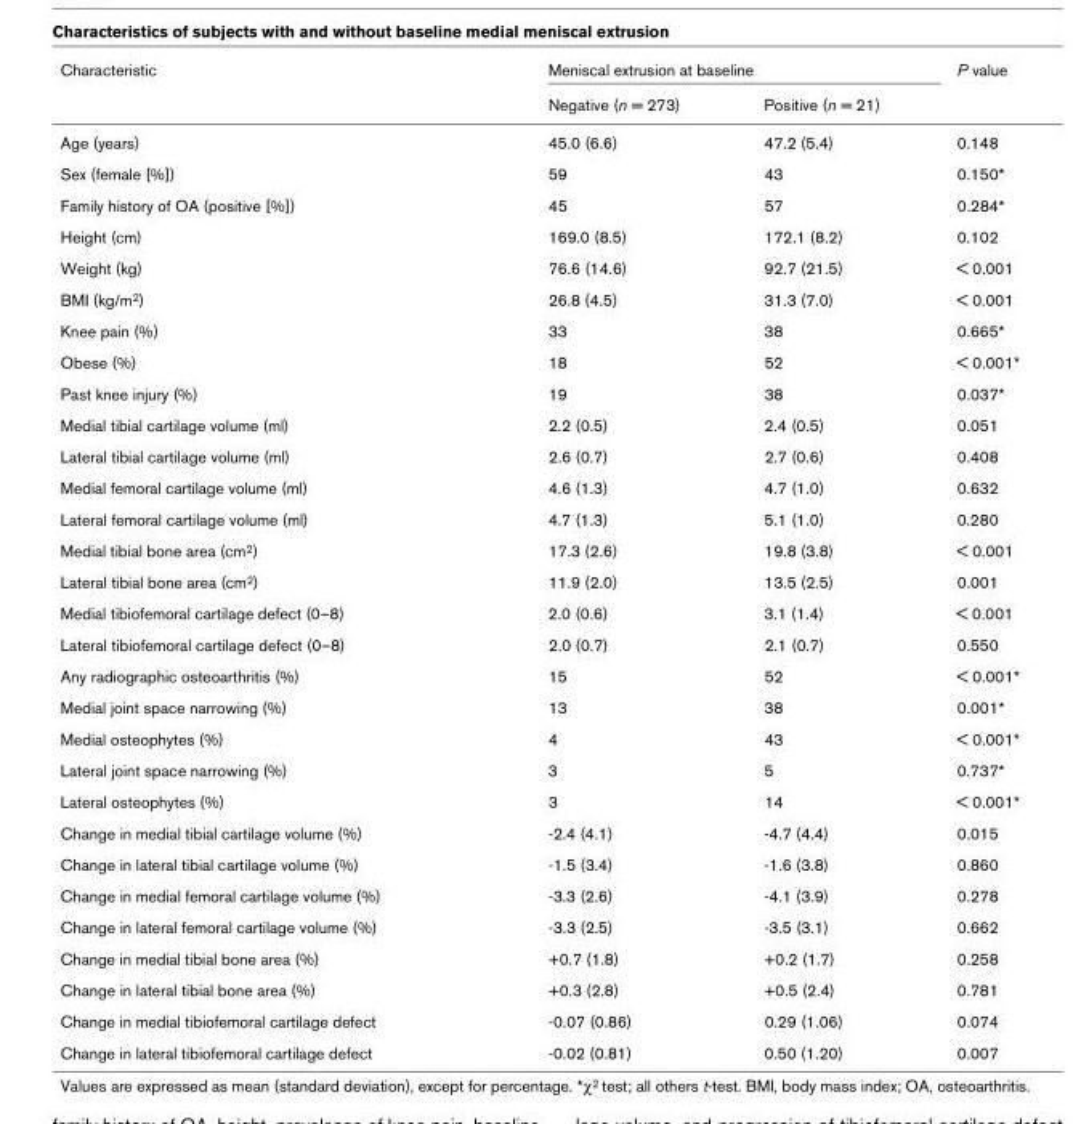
<table><thead><tr><td rowspan="2">Characteristic</td><td colspan="2">Meniscal extrusion at baseline</td><td rowspan="2">P value</td></tr><tr><td>Negative (n = 273)</td><td>Positive (n = 21)</td></tr></thead><tbody><tr><td>Age (years)</td><td>45.0 (6.6)</td><td>47.2 (5.4)</td><td>0.148</td></tr><tr><td>Sex (female [%])</td><td>59</td><td>43</td><td>0.150*</td></tr><tr><td>Family history of OA (positive [%])</td><td>45</td><td>57</td><td>0.284*</td></tr><tr><td>Height (cm)</td><td>169.0 (8.5)</td><td>172.1 (8.2)</td><td>0.102</td></tr><tr><td>Weight (kg)</td><td>76.6 (14.6)</td><td>92.7 (21.5)</td><td>&lt; 0.001</td></tr><tr><td>BMI (kg/m<sup>2</sup>)</td><td>26.8 (4.5)</td><td>31.3 (7.0)</td><td>&lt; 0.001</td></tr><tr><td>Knee pain (%)</td><td>33</td><td>38</td><td>0.665*</td></tr><tr><td>Obese (%)</td><td>18</td><td>52</td><td>&lt; 0.001*</td></tr><tr><td>Past knee injury (%)</td><td>19</td><td>38</td><td>0.037*</td></tr><tr><td>Medial tibial cartilage volume (ml)</td><td>2.2 (0.5)</td><td>2.4 (0.5)</td><td>0.051</td></tr><tr><td>Lateral tibial cartilage volume (ml)</td><td>2.6 (0.7)</td><td>2.7 (0.6)</td><td>0.408</td></tr><tr><td>Medial femoral cartilage volume (ml)</td><td>4.6 (1.3)</td><td>4.7 (1.0)</td><td>0.632</td></tr><tr><td>Lateral femoral cartilage volume (ml)</td><td>4.7 (1.3)</td><td>5.1 (1.0)</td><td>0.280</td></tr><tr><td>Medial tibial bone area (cm<sup>2</sup>)</td><td>17.3 (2.6)</td><td>19.8 (3.8)</td><td>&lt; 0.001</td></tr><tr><td>Lateral tibial bone area (cm<sup>2</sup>)</td><td>11.9 (2.0)</td><td>13.5 (2.5)</td><td>0.001</td></tr><tr><td>Medial tibiofemoral cartilage defect (0–8)</td><td>2.0 (0.6)</td><td>3.1 (1.4)</td><td>&lt; 0.001</td></tr><tr><td>Lateral tibiofemoral cartilage defect (0–8)</td><td>2.0 (0.7)</td><td>2.1 (0.7)</td><td>0.550</td></tr><tr><td>Any radiographic osteoarthritis (%)</td><td>15</td><td>52</td><td>&lt; 0.001*</td></tr><tr><td>Medial joint space narrowing (%)</td><td>13</td><td>38</td><td>0.001*</td></tr><tr><td>Medial osteophytes (%)</td><td>4</td><td>43</td><td>&lt; 0.001*</td></tr><tr><td>Lateral joint space narrowing (%)</td><td>3</td><td>5</td><td>0.737*</td></tr><tr><td>Lateral osteophytes (%)</td><td>3</td><td>14</td><td>&lt; 0.001*</td></tr><tr><td>Change in medial tibial cartilage volume (%)</td><td>-2.4 (4.1)</td><td>-4.7 (4.4)</td><td>0.015</td></tr><tr><td>Change in lateral tibial cartilage volume (%)</td><td>-1.5 (3.4)</td><td>-1.6 (3.8)</td><td>0.860</td></tr><tr><td>Change in medial femoral cartilage volume (%)</td><td>-3.3 (2.6)</td><td>-4.1 (3.9)</td><td>0.278</td></tr><tr><td>Change in lateral femoral cartilage volume (%)</td><td>-3.3 (2.5)</td><td>-3.5 (3.1)</td><td>0.662</td></tr><tr><td>Change in medial tibial bone area (%)</td><td>+0.7 (1.8)</td><td>+0.2 (1.7)</td><td>0.258</td></tr><tr><td>Change in lateral tibial bone area (%)</td><td>+0.3 (2.8)</td><td>+0.5 (2.4)</td><td>0.781</td></tr><tr><td>Change in medial tibiofemoral cartilage defect</td><td>-0.07 (0.86)</td><td>0.29 (1.06)</td><td>0.074</td></tr><tr><td>Change in lateral tibiofemoral cartilage defect</td><td>-0.02 (0.81)</td><td>0.50 (1.20)</td><td>0.007</td></tr></tbody></table>